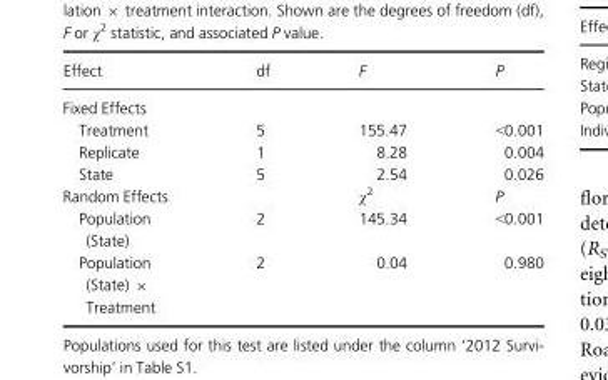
<table><thead><tr><td>Effect</td><td>df</td><td>F</td><td>P</td></tr></thead><tbody><tr><td colspan="4">Fixed Effects</td></tr><tr><td>Treatment</td><td>5</td><td>155.47</td><td>&lt;0.001</td></tr><tr><td>Replicate</td><td>1</td><td>8.28</td><td>0.004</td></tr><tr><td>State</td><td>5</td><td>2.54</td><td>0.026</td></tr><tr><td>Random Effects</td><td></td><td>χ<sup>2</sup></td><td>P</td></tr><tr><td>Population (State)</td><td>2</td><td>145.34</td><td>&lt;0.001</td></tr><tr><td>Population (State) × Treatment</td><td>2</td><td>0.04</td><td>0.980</td></tr></tbody></table>